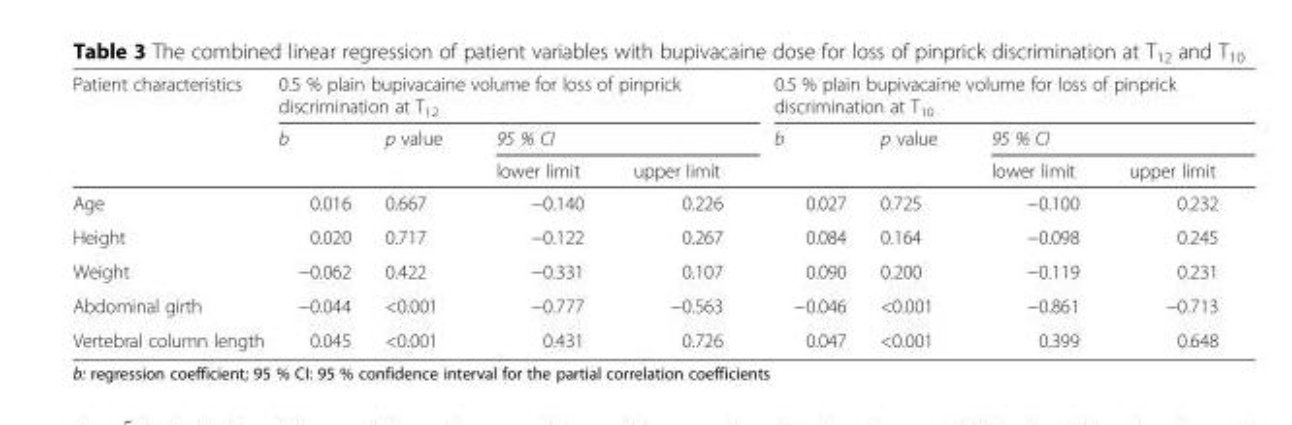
<table><thead><tr><td rowspan="3">Patient characteristics</td><td colspan="4">0.5 % plain bupivacaine volume for loss of pinprick discrimination at T<sub>12</sub></td><td colspan="4">0.5 % plain bupivacaine volume for loss of pinprick discrimination at T<sub>10</sub></td></tr><tr><td rowspan="2">b</td><td rowspan="2">p value</td><td colspan="2">95 % CI</td><td rowspan="2">b</td><td rowspan="2">p value</td><td colspan="2">95 % CI</td></tr><tr><td>lower limit</td><td>upper limit</td><td>lower limit</td><td>upper limit</td></tr></thead><tbody><tr><td>Age</td><td>0.016</td><td>0.667</td><td>−0.140</td><td>0.226</td><td>0.027</td><td>0.725</td><td>−0.100</td><td>0.232</td></tr><tr><td>Height</td><td>0.020</td><td>0.717</td><td>−0.122</td><td>0.267</td><td>0.084</td><td>0.164</td><td>−0.098</td><td>0.245</td></tr><tr><td>Weight</td><td>−0.062</td><td>0.422</td><td>−0.331</td><td>0.107</td><td>0.090</td><td>0.200</td><td>−0.119</td><td>0.231</td></tr><tr><td>Abdominal girth</td><td>−0.044</td><td>&lt;0.001</td><td>−0.777</td><td>−0.563</td><td>−0.046</td><td>&lt;0.001</td><td>−0.861</td><td>−0.713</td></tr><tr><td>Vertebral column length</td><td>0.045</td><td>&lt;0.001</td><td>0.431</td><td>0.726</td><td>0.047</td><td>&lt;0.001</td><td>0.399</td><td>0.648</td></tr></tbody></table>